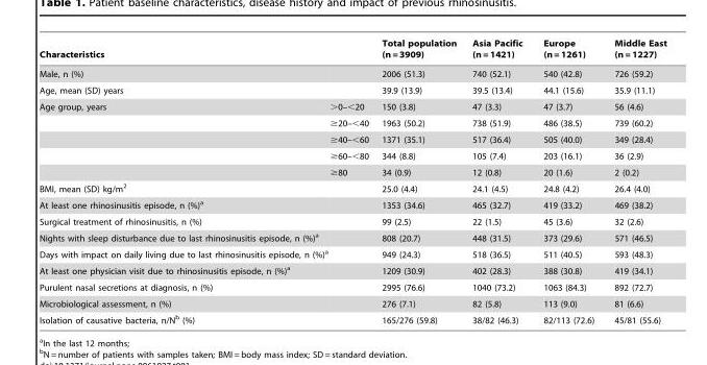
<table><thead><tr><td colspan="2">Characteristics</td><td rowspan="2">Total population (n = 3909) 2006 (51.3)</td><td rowspan="2">Asia Pacific (n = 1421) 740 (52.1)</td><td rowspan="2">Europe (n = 1261) 540 (42.8)</td><td rowspan="2">Middle East (n = 1227) 726 (59.2)</td></tr><tr><td>Male, n (%)</td><td></td></tr></thead><tbody><tr><td>Age, mean (SD) years</td><td></td><td>39.9 (13.9)</td><td>39.5 (13.4)</td><td>44.1 (15.6)</td><td>35.9 (11.1)</td></tr><tr><td rowspan="5">Age group, years</td><td>&gt;0–&lt;20</td><td>150 (3.8)</td><td>47 (3.3)</td><td>47 (3.7)</td><td>56 (4.6)</td></tr><tr><td>≥20–&lt;40</td><td>1963 (50.2)</td><td>738 (51.9)</td><td>486 (38.5)</td><td>739 (60.2)</td></tr><tr><td>≥40–&lt;60</td><td>1371 (35.1)</td><td>517 (36.4)</td><td>505 (40.0)</td><td>349 (28.4)</td></tr><tr><td>≥60–&lt;80</td><td>344 (8.8)</td><td>105 (7.4)</td><td>203 (16.1)</td><td>36 (2.9)</td></tr><tr><td>≥80</td><td>34 (0.9)</td><td>12 (0.8)</td><td>20 (1.6)</td><td>2 (0.2)</td></tr><tr><td>BMI, mean (SD) kg/m<sup>2</sup></td><td></td><td>25.0 (4.4)</td><td>24.1 (4.5)</td><td>24.8 (4.2)</td><td>26.4 (4.0)</td></tr><tr><td>At least one rhinosinusitis episode, n (%)<sup>a</sup></td><td></td><td>1353 (34.6)</td><td>465 (32.7)</td><td>419 (33.2)</td><td>469 (38.2)</td></tr><tr><td>Surgical treatment of rhinosinusitis, n (%)</td><td></td><td>99 (2.5)</td><td>22 (1.5)</td><td>45 (3.6)</td><td>32 (2.6)</td></tr><tr><td>Nights with sleep disturbance due to last rhinosinusitis episode, n (%)<sup>a</sup></td><td></td><td>808 (20.7)</td><td>448 (31.5)</td><td>373 (29.6)</td><td>571 (46.5)</td></tr><tr><td>Days with impact on daily living due to last rhinosinusitis episode, n (%)<sup>a</sup></td><td></td><td>949 (24.3)</td><td>518 (36.5)</td><td>511 (40.5)</td><td>593 (48.3)</td></tr><tr><td>At least one physician visit due to rhinosinusitis episode, n (%)<sup>a</sup></td><td></td><td>1209 (30.9)</td><td>402 (28.3)</td><td>388 (30.8)</td><td>419 (34.1)</td></tr><tr><td>Purulent nasal secretions at diagnosis, n (%)</td><td></td><td>2995 (76.6)</td><td>1040 (73.2)</td><td>1063 (84.3)</td><td>892 (72.7)</td></tr><tr><td>Microbiological assessment, n (%)</td><td></td><td>276 (7.1)</td><td>82 (5.8)</td><td>113 (9.0)</td><td>81 (6.6)</td></tr><tr><td>Isolation of causative bacteria, n/N<sup>b</sup> (%)</td><td></td><td>165/276 (59.8)</td><td>38/82 (46.3)</td><td>82/113 (72.6)</td><td>45/81 (55.6)</td></tr></tbody></table>